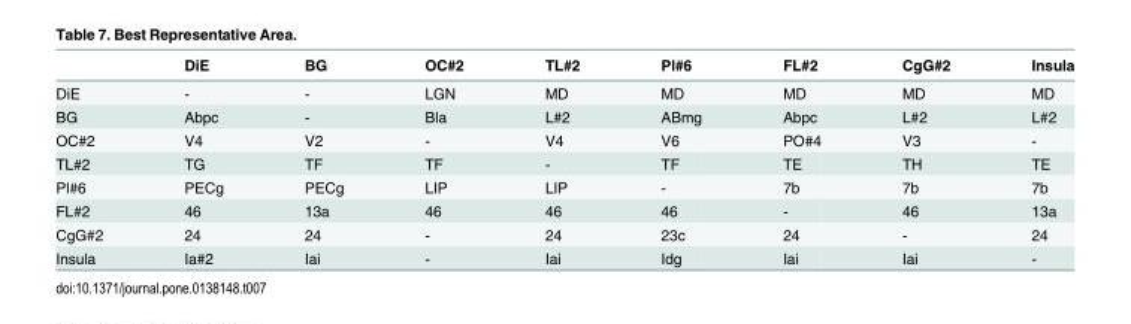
<table><thead><tr><td></td><td>DiE</td><td>BG</td><td>OC#2</td><td>TL#2</td><td>Pl#6</td><td>FL#2</td><td>CgG#2</td><td>Insula</td></tr></thead><tbody><tr><td>DiE</td><td>-</td><td>-</td><td>LGN</td><td>MD</td><td>MD</td><td>MD</td><td>MD</td><td>MD</td></tr><tr><td>BG</td><td>Abpc</td><td>-</td><td>Bla</td><td>L#2</td><td>ABmg</td><td>Abpc</td><td>L#2</td><td>L#2</td></tr><tr><td>OC#2</td><td>V4</td><td>V2</td><td>-</td><td>V4</td><td>V6</td><td>PO#4</td><td>V3</td><td>-</td></tr><tr><td>TL#2</td><td>TG</td><td>TF</td><td>TF</td><td>-</td><td>TF</td><td>TE</td><td>TH</td><td>TE</td></tr><tr><td>Pl#6</td><td>PECg</td><td>PECg</td><td>LIP</td><td>LIP</td><td>-</td><td>7b</td><td>7b</td><td>7b</td></tr><tr><td>FL#2</td><td>46</td><td>13a</td><td>46</td><td>46</td><td>46</td><td>-</td><td>46</td><td>13a</td></tr><tr><td>CgG#2</td><td>24</td><td>24</td><td>-</td><td>24</td><td>23c</td><td>24</td><td>-</td><td>24</td></tr><tr><td>Insula</td><td>Ia#2</td><td>Iai</td><td>-</td><td>Iai</td><td>Idg</td><td>Iai</td><td>Iai</td><td>-</td></tr></tbody></table>